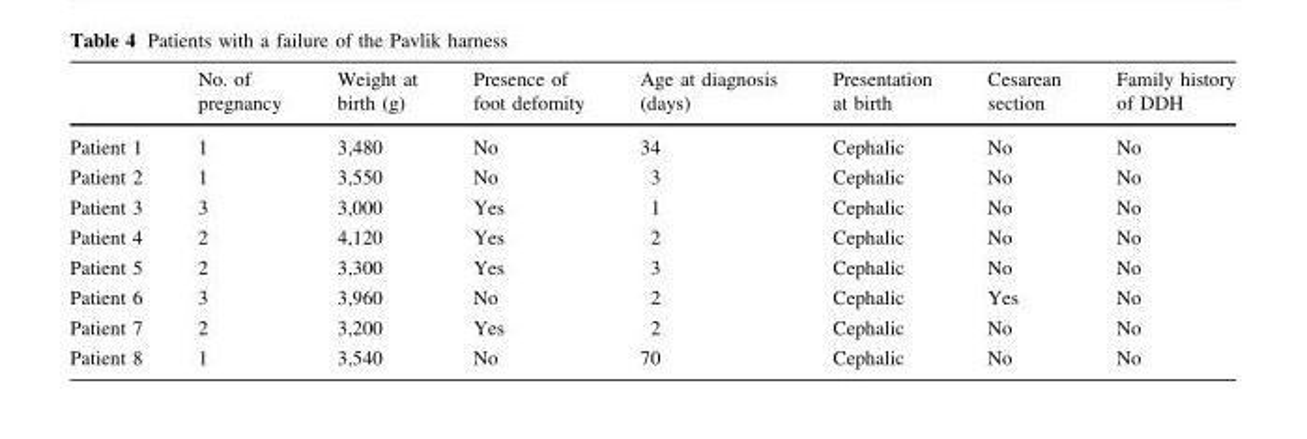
<table><thead><tr><td></td><td>No. of pregnancy</td><td>Weight at birth (g)</td><td>Presence of foot defomity</td><td>Age at diagnosis (days)</td><td>Presentation at birth</td><td>Cesarean section</td><td>Family history of DDH</td></tr></thead><tbody><tr><td>Patient 1</td><td>1</td><td>3,480</td><td>No</td><td>34</td><td>Cephalic</td><td>No</td><td>No</td></tr><tr><td>Patient 2</td><td>1</td><td>3,550</td><td>No</td><td>3</td><td>Cephalic</td><td>No</td><td>No</td></tr><tr><td>Patient 3</td><td>3</td><td>3,000</td><td>Yes</td><td>1</td><td>Cephalic</td><td>No</td><td>No</td></tr><tr><td>Patient 4</td><td>2</td><td>4,120</td><td>Yes</td><td>2</td><td>Cephalic</td><td>No</td><td>No</td></tr><tr><td>Patient 5</td><td>2</td><td>3,300</td><td>Yes</td><td>3</td><td>Cephalic</td><td>No</td><td>No</td></tr><tr><td>Patient 6</td><td>3</td><td>3,960</td><td>No</td><td>2</td><td>Cephalic</td><td>Yes</td><td>No</td></tr><tr><td>Patient 7</td><td>2</td><td>3,200</td><td>Yes</td><td>2</td><td>Cephalic</td><td>No</td><td>No</td></tr><tr><td>Patient 8</td><td>1</td><td>3,540</td><td>No</td><td>70</td><td>Cephalic</td><td>No</td><td>No</td></tr></tbody></table>